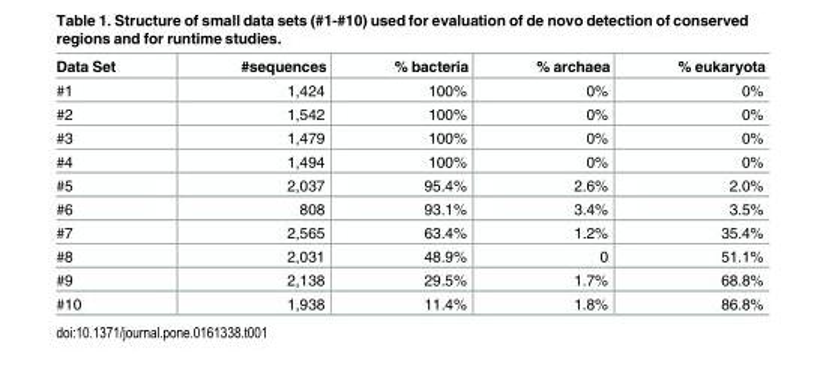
<table><thead><tr><td>Data Set</td><td>#sequences</td><td>% bacteria</td><td>% archaea</td><td>% eukaryota</td></tr></thead><tbody><tr><td>#1</td><td>1,424</td><td>100%</td><td>0%</td><td>0%</td></tr><tr><td>#2</td><td>1,542</td><td>100%</td><td>0%</td><td>0%</td></tr><tr><td>#3</td><td>1,479</td><td>100%</td><td>0%</td><td>0%</td></tr><tr><td>#4</td><td>1,494</td><td>100%</td><td>0%</td><td>0%</td></tr><tr><td>#5</td><td>2,037</td><td>95.4%</td><td>2.6%</td><td>2.0%</td></tr><tr><td>#6</td><td>808</td><td>93.1%</td><td>3.4%</td><td>3.5%</td></tr><tr><td>#7</td><td>2,565</td><td>63.4%</td><td>1.2%</td><td>35.4%</td></tr><tr><td>#8</td><td>2,031</td><td>48.9%</td><td>0</td><td>51.1%</td></tr><tr><td>#9</td><td>2,138</td><td>29.5%</td><td>1.7%</td><td>68.8%</td></tr><tr><td>#10</td><td>1,938</td><td>11.4%</td><td>1.8%</td><td>86.8%</td></tr></tbody></table>